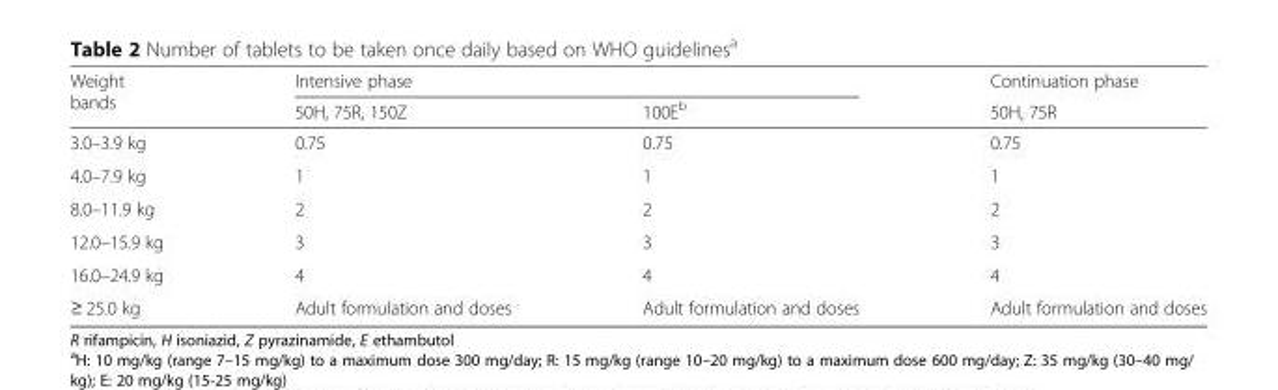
<table><thead><tr><td rowspan="2">Weight bands</td><td colspan="2">Intensive phase</td><td rowspan="2">Continuation phase 50H, 75R</td></tr><tr><td>50H, 75R, 150Z</td><td>100E<sup>b</sup></td></tr></thead><tbody><tr><td>3.0–3.9 kg</td><td>0.75</td><td>0.75</td><td>0.75</td></tr><tr><td>4.0–7.9 kg</td><td>1</td><td>1</td><td>1</td></tr><tr><td>8.0–11.9 kg</td><td>2</td><td>2</td><td>2</td></tr><tr><td>12.0–15.9 kg</td><td>3</td><td>3</td><td>3</td></tr><tr><td>16.0–24.9 kg</td><td>4</td><td>4</td><td>4</td></tr><tr><td>≥ 25.0 kg</td><td>Adult formulation and doses</td><td>Adult formulation and doses</td><td>Adult formulation and doses</td></tr></tbody></table>